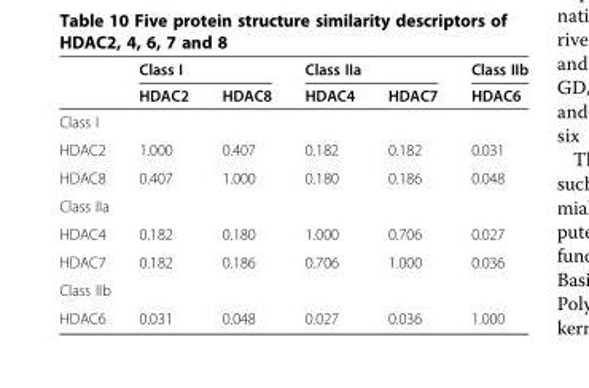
<table><thead><tr><td rowspan="2"></td><td colspan="2">Class I</td><td colspan="2">Class IIa</td><td rowspan="2">Class IIb HDAC6</td></tr><tr><td>HDAC2</td><td>HDAC8</td><td>HDAC4</td><td>HDAC7</td></tr></thead><tbody><tr><td colspan="6">Class I</td></tr><tr><td>HDAC2</td><td>1.000</td><td>0.407</td><td>0.182</td><td>0.182</td><td>0.031</td></tr><tr><td>HDAC8</td><td>0.407</td><td>1.000</td><td>0.180</td><td>0.186</td><td>0.048</td></tr><tr><td colspan="6">Class IIa</td></tr><tr><td>HDAC4</td><td>0.182</td><td>0.180</td><td>1.000</td><td>0.706</td><td>0.027</td></tr><tr><td>HDAC7</td><td>0.182</td><td>0.186</td><td>0.706</td><td>1.000</td><td>0.036</td></tr><tr><td colspan="6">Class IIb</td></tr><tr><td>HDAC6</td><td>0.031</td><td>0.048</td><td>0.027</td><td>0.036</td><td>1.000</td></tr></tbody></table>